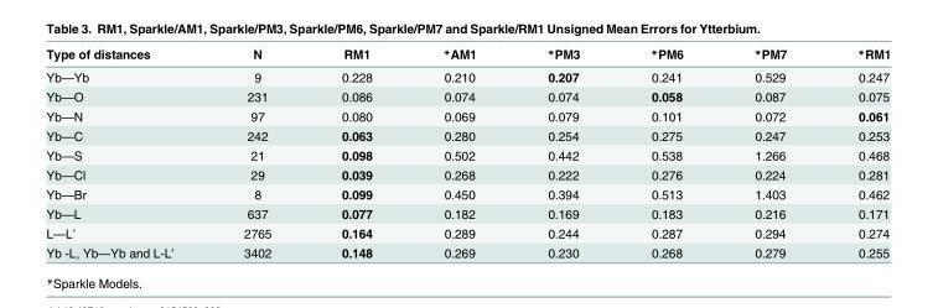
<table><thead><tr><td>Type of distances</td><td>N</td><td>RM1</td><td>*AM1</td><td>*PM3</td><td>*PM6</td><td>*PM7</td><td>*RM1</td></tr></thead><tbody><tr><td>Yb—Yb</td><td>9</td><td>0.228</td><td>0.210</td><td>0.207</td><td>0.241</td><td>0.529</td><td>0.247</td></tr><tr><td>Yb—O</td><td>231</td><td>0.086</td><td>0.074</td><td>0.074</td><td>0.058</td><td>0.087</td><td>0.075</td></tr><tr><td>Yb—N</td><td>97</td><td>0.080</td><td>0.069</td><td>0.079</td><td>0.101</td><td>0.072</td><td>0.061</td></tr><tr><td>Yb—C</td><td>242</td><td>0.063</td><td>0.280</td><td>0.254</td><td>0.275</td><td>0.247</td><td>0.253</td></tr><tr><td>Yb—S</td><td>21</td><td>0.098</td><td>0.502</td><td>0.442</td><td>0.538</td><td>1.266</td><td>0.468</td></tr><tr><td>Yb—Cl</td><td>29</td><td>0.039</td><td>0.268</td><td>0.222</td><td>0.276</td><td>0.224</td><td>0.281</td></tr><tr><td>Yb—Br</td><td>8</td><td>0.099</td><td>0.450</td><td>0.394</td><td>0.513</td><td>1.403</td><td>0.462</td></tr><tr><td>Yb—L</td><td>637</td><td>0.077</td><td>0.182</td><td>0.169</td><td>0.183</td><td>0.216</td><td>0.171</td></tr><tr><td>L—L’</td><td>2765</td><td>0.164</td><td>0.289</td><td>0.244</td><td>0.287</td><td>0.294</td><td>0.274</td></tr><tr><td>Yb -L, Yb—Yb and L-L’</td><td>3402</td><td>0.148</td><td>0.269</td><td>0.230</td><td>0.268</td><td>0.279</td><td>0.255</td></tr></tbody></table>